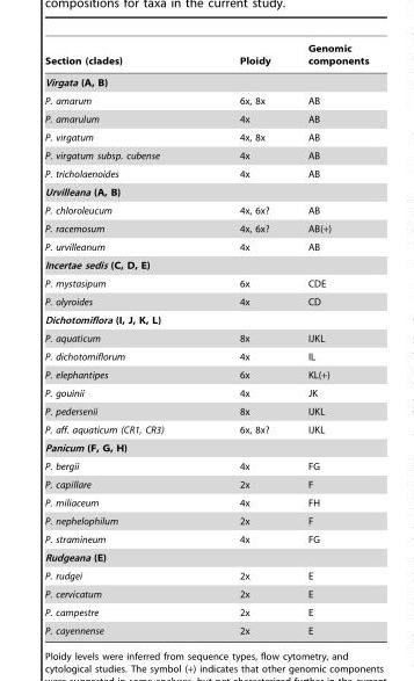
<table><thead><tr><td>Section (clades)</td><td>Ploidy</td><td>Genomic components</td></tr></thead><tbody><tr><td colspan="3">Virgata (A, B)</td></tr><tr><td>P. amarum</td><td>6x, 8x</td><td>AB</td></tr><tr><td>P. amarulum</td><td>4x</td><td>AB</td></tr><tr><td>P. virgatum</td><td>4x, 8x</td><td>AB</td></tr><tr><td>P. virgatum subsp. cubense</td><td>4x</td><td>AB</td></tr><tr><td>P. tricholaenoides</td><td>4x</td><td>AB</td></tr><tr><td colspan="3">Urvilleana (A, B)</td></tr><tr><td>P. chloroleucum</td><td>4x, 6x?</td><td>AB</td></tr><tr><td>P. racemosum</td><td>4x, 6x?</td><td>AB(+)</td></tr><tr><td>P. urvilleanum</td><td>4x</td><td>AB</td></tr><tr><td colspan="3">Incertae sedis (C, D, E)</td></tr><tr><td>P. mystasipum</td><td>6x</td><td>CDE</td></tr><tr><td>P. olyroides</td><td>4x</td><td>CD</td></tr><tr><td colspan="3">Dichotomiflora (I, J, K, L)</td></tr><tr><td>P. aquaticum</td><td>8x</td><td>IJKL</td></tr><tr><td>P. dichotomiflorum</td><td>4x</td><td>IL</td></tr><tr><td>P. elephantipes</td><td>6x</td><td>KL(+)</td></tr><tr><td>P. gouinii</td><td>4x</td><td>JK</td></tr><tr><td>P. pedersenii</td><td>8x</td><td>IJKL</td></tr><tr><td>P. aff. aquaticum (CR1, CR3)</td><td>6x, 8x?</td><td>IJKL</td></tr><tr><td colspan="3">Panicum (F, G, H)</td></tr><tr><td>P. bergii</td><td>4x</td><td>FG</td></tr><tr><td>P. capillare</td><td>2x</td><td>F</td></tr><tr><td>P. miliaceum</td><td>4x</td><td>FH</td></tr><tr><td>P. nephelophilum</td><td>2x</td><td>F</td></tr><tr><td>P. stramineum</td><td>4x</td><td>FG</td></tr><tr><td colspan="3">Rudgeana (E)</td></tr><tr><td>P. rudgei</td><td>2x</td><td>E</td></tr><tr><td>P. cervicatum</td><td>2x</td><td>E</td></tr><tr><td>P. campestre</td><td>2x</td><td>E</td></tr><tr><td>P. cayennense</td><td>2x</td><td>E</td></tr></tbody></table>